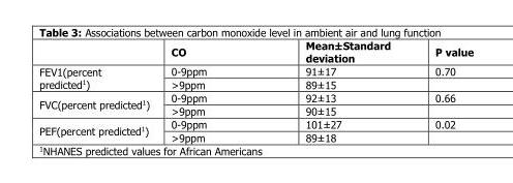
<table><thead><tr><td></td><td>CO</td><td>Mean±Standard deviation</td><td>P value</td></tr></thead><tbody><tr><td rowspan="2">FEV1(percent predicted<sup>1</sup>)</td><td>0-9ppm</td><td>91±17</td><td>0.70</td></tr><tr><td>&gt;9ppm</td><td>89±15</td><td></td></tr><tr><td rowspan="2">FVC(percent predicted<sup>1</sup>)</td><td>0-9ppm</td><td>92±13</td><td>0.66</td></tr><tr><td>&gt;9ppm</td><td>90±15</td><td></td></tr><tr><td rowspan="2">PEF(percent predicted<sup>1</sup>)</td><td>0-9ppm</td><td>101±27</td><td>0.02</td></tr><tr><td>&gt;9ppm</td><td>89±18</td><td></td></tr></tbody></table>